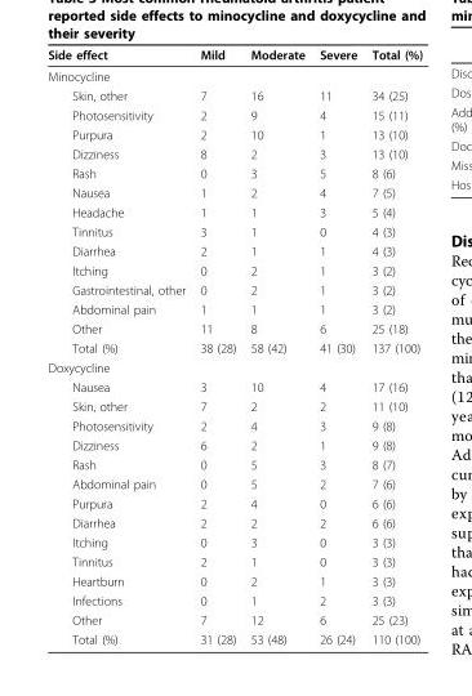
<table><thead><tr><td>Side effect</td><td>Mild</td><td>Moderate</td><td>Severe</td><td>Total (%)</td></tr></thead><tbody><tr><td colspan="5">Minocycline</td></tr><tr><td>Skin, other</td><td>7</td><td>16</td><td>11</td><td>34 (25)</td></tr><tr><td>Photosensitivity</td><td>2</td><td>9</td><td>4</td><td>15 (11)</td></tr><tr><td>Purpura</td><td>2</td><td>10</td><td>1</td><td>13 (10)</td></tr><tr><td>Dizziness</td><td>8</td><td>2</td><td>3</td><td>13 (10)</td></tr><tr><td>Rash</td><td>0</td><td>3</td><td>5</td><td>8 (6)</td></tr><tr><td>Nausea</td><td>1</td><td>2</td><td>4</td><td>7 (5)</td></tr><tr><td>Headache</td><td>1</td><td>1</td><td>3</td><td>5 (4)</td></tr><tr><td>Tinnitus</td><td>3</td><td>1</td><td>0</td><td>4 (3)</td></tr><tr><td>Diarrhea</td><td>2</td><td>1</td><td>1</td><td>4 (3)</td></tr><tr><td>Itching</td><td>0</td><td>2</td><td>1</td><td>3 (2)</td></tr><tr><td>Gastrointestinal, other</td><td>0</td><td>2</td><td>1</td><td>3 (2)</td></tr><tr><td>Abdominal pain</td><td>1</td><td>1</td><td>1</td><td>3 (2)</td></tr><tr><td>Other</td><td>11</td><td>8</td><td>6</td><td>25 (18)</td></tr><tr><td>Total (%)</td><td>38 (28)</td><td>58 (42)</td><td>41 (30)</td><td>137 (100)</td></tr><tr><td colspan="5">Doxycycline</td></tr><tr><td>Nausea</td><td>3</td><td>10</td><td>4</td><td>17 (16)</td></tr><tr><td>Skin, other</td><td>7</td><td>2</td><td>2</td><td>11 (10)</td></tr><tr><td>Photosensitivity</td><td>2</td><td>4</td><td>3</td><td>9 (8)</td></tr><tr><td>Dizziness</td><td>6</td><td>2</td><td>1</td><td>9 (8)</td></tr><tr><td>Rash</td><td>0</td><td>5</td><td>3</td><td>8 (7)</td></tr><tr><td>Abdominal pain</td><td>0</td><td>5</td><td>2</td><td>7 (6)</td></tr><tr><td>Purpura</td><td>2</td><td>4</td><td>0</td><td>6 (6)</td></tr><tr><td>Diarrhea</td><td>2</td><td>2</td><td>2</td><td>6 (6)</td></tr><tr><td>Itching</td><td>0</td><td>3</td><td>0</td><td>3 (3)</td></tr><tr><td>Tinnitus</td><td>2</td><td>1</td><td>0</td><td>3 (3)</td></tr><tr><td>Heartburn</td><td>0</td><td>2</td><td>1</td><td>3 (3)</td></tr><tr><td>Infections</td><td>0</td><td>1</td><td>2</td><td>3 (3)</td></tr><tr><td>Other</td><td>7</td><td>12</td><td>6</td><td>25 (23)</td></tr><tr><td>Total (%)</td><td>31 (28)</td><td>53 (48)</td><td>26 (24)</td><td>110 (100)</td></tr></tbody></table>